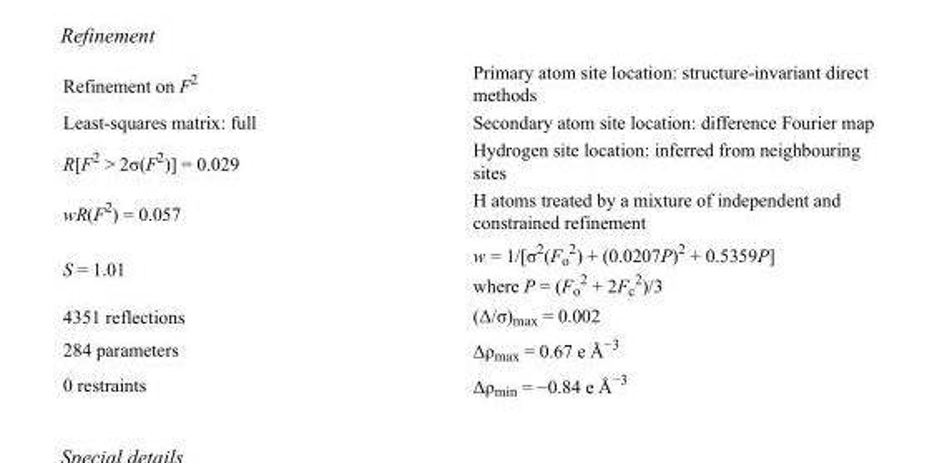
<table><tbody><tr><td>Refinement on F<sup>2</sup></td><td>Primary atom site location: structure-invariant direct methods</td></tr><tr><td>Least-squares matrix: full</td><td>Secondary atom site location: difference Fourier map</td></tr><tr><td>R[F<sup>2</sup> &gt; 2σ(F<sup>2</sup>)] = 0.029</td><td>Hydrogen site location: inferred from neighbouring sites</td></tr><tr><td>wR(F<sup>2</sup>) = 0.057</td><td>H atoms treated by a mixture of independent and constrained refinement</td></tr><tr><td>S = 1.01</td><td>w = 1/[σ<sup>2</sup>(F<sub>o</sub> <sup>2</sup>) + (0.0207P)<sup>2</sup> + 0.5359P] where P = (F<sub>o</sub> <sup>2</sup> + 2F<sub>c</sub> <sup>2</sup>)/3</td></tr><tr><td>4351 reflections</td><td>(Δ/σ)<sub>max</sub> = 0.002</td></tr><tr><td>284 parameters</td><td>Δρ<sub>max</sub> = 0.67 e Å<sup>−3</sup></td></tr><tr><td>0 restraints</td><td>Δρ<sub>min</sub> = −0.84 e Å<sup>−3</sup></td></tr></tbody></table>